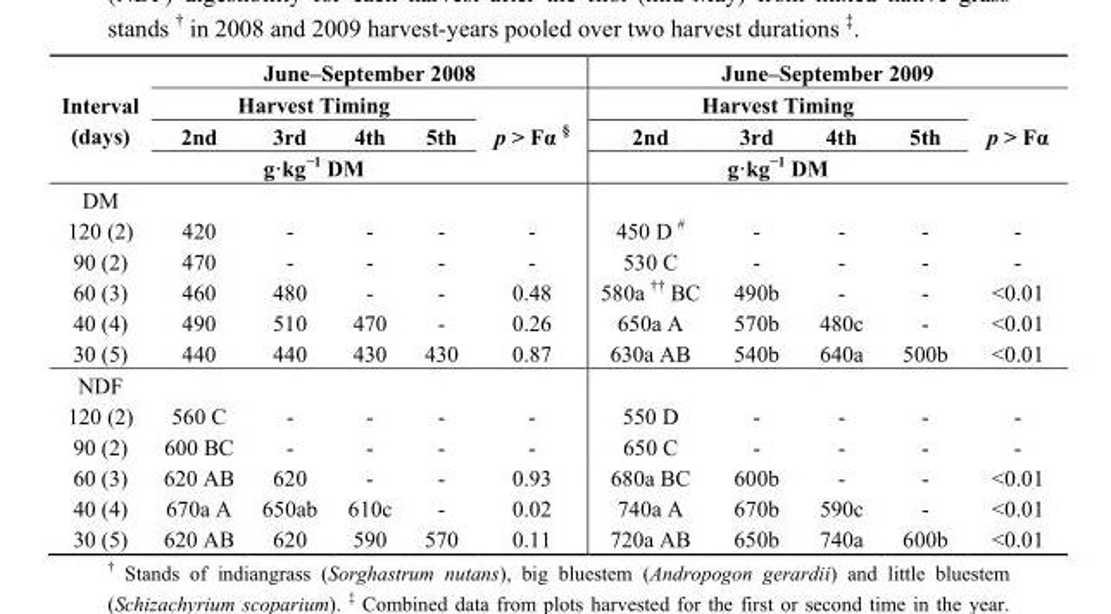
<table><thead><tr><td rowspan="4">Interval (days)</td><td colspan="5">June–September 2008</td><td colspan="5">June–September 2009</td></tr><tr><td colspan="4">Harvest Timing</td><td rowspan="3">p &gt; Fα <sup>§</sup></td><td colspan="4">Harvest Timing</td><td rowspan="3">p &gt; Fα</td></tr><tr><td>2nd</td><td>3rd</td><td>4th</td><td>5th</td><td>2nd</td><td>3rd</td><td>4th</td><td>5th</td></tr><tr><td colspan="4">g·kg<sup>−1</sup> DM</td><td colspan="4">g·kg<sup>−1</sup> DM</td></tr></thead><tbody><tr><td colspan="11">DM</td></tr><tr><td>120 (2)</td><td>420</td><td>-</td><td>-</td><td>-</td><td>-</td><td>450 D <sup>#</sup></td><td>-</td><td>-</td><td>-</td><td>-</td></tr><tr><td>90 (2)</td><td>470</td><td>-</td><td>-</td><td>-</td><td>-</td><td>530 C</td><td>-</td><td>-</td><td>-</td><td>-</td></tr><tr><td>60 (3)</td><td>460</td><td>480</td><td>-</td><td>-</td><td>0.48</td><td>580a <sup>††</sup> BC</td><td>490b</td><td>-</td><td>-</td><td>&lt;0.01</td></tr><tr><td>40 (4)</td><td>490</td><td>510</td><td>470</td><td>-</td><td>0.26</td><td>650a A</td><td>570b</td><td>480c</td><td>-</td><td>&lt;0.01</td></tr><tr><td>30 (5)</td><td>440</td><td>440</td><td>430</td><td>430</td><td>0.87</td><td>630a AB</td><td>540b</td><td>640a</td><td>500b</td><td>&lt;0.01</td></tr><tr><td colspan="11">NDF</td></tr><tr><td>120 (2)</td><td>560 C</td><td>-</td><td>-</td><td>-</td><td>-</td><td>550 D</td><td>-</td><td>-</td><td>-</td><td>-</td></tr><tr><td>90 (2)</td><td>600 BC</td><td>-</td><td>-</td><td>-</td><td>-</td><td>650 C</td><td>-</td><td>-</td><td>-</td><td>-</td></tr><tr><td>60 (3)</td><td>620 AB</td><td>620</td><td>-</td><td>-</td><td>0.93</td><td>680a BC</td><td>600b</td><td>-</td><td>-</td><td>&lt;0.01</td></tr><tr><td>40 (4)</td><td>670a A</td><td>650ab</td><td>610c</td><td>-</td><td>0.02</td><td>740a A</td><td>670b</td><td>590c</td><td>-</td><td>&lt;0.01</td></tr><tr><td>30 (5)</td><td>620 AB</td><td>620</td><td>590</td><td>570</td><td>0.11</td><td>720a AB</td><td>650b</td><td>740a</td><td>600b</td><td>&lt;0.01</td></tr></tbody></table>